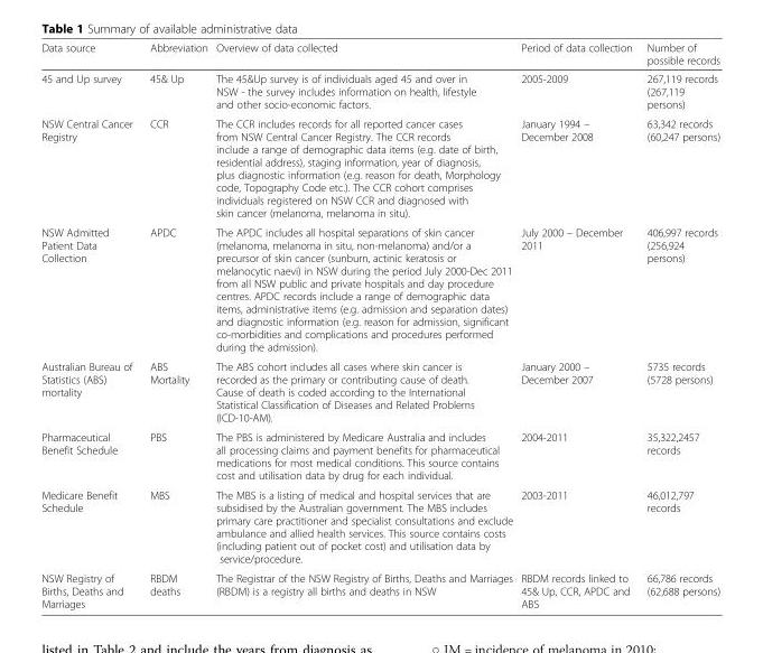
<table><thead><tr><td>Data source</td><td>Abbreviation</td><td>Overview of data collected</td><td>Period of data collection</td><td>Number of possible records</td></tr></thead><tbody><tr><td>45 and Up survey</td><td>45&amp; Up</td><td>The 45&amp;Up survey is of individuals aged 45 and over in NSW - the survey includes information on health, lifestyle and other socio-economic factors.</td><td>2005-2009</td><td>267,119 records (267,119 persons)</td></tr><tr><td>NSW Central Cancer Registry</td><td>CCR</td><td>The CCR includes records for all reported cancer cases from NSW Central Cancer Registry. The CCR records include a range of demographic data items (e.g. date of birth, residential address), staging information, year of diagnosis, plus diagnostic information (e.g. reason for death, Morphology code, Topography Code etc.). The CCR cohort comprises individuals registered on NSW CCR and diagnosed with skin cancer (melanoma, melanoma in situ).</td><td>January 1994 – December 2008</td><td>63,342 records (60,247 persons)</td></tr><tr><td>NSW Admitted Patient Data Collection</td><td>APDC</td><td>The APDC includes all hospital separations of skin cancer (melanoma, melanoma in situ, non-melanoma) and/or a precursor of skin cancer (sunburn, actinic keratosis or melanocytic naevi) in NSW during the period July 2000-Dec 2011 from all NSW public and private hospitals and day procedure centres. APDC records include a range of demographic data items, administrative items (e.g. admission and separation dates) and diagnostic information (e.g. reason for admission, significant co-morbidities and complications and procedures performed during the admission).</td><td>July 2000 – December 2011</td><td>406,997 records (256,924 persons)</td></tr><tr><td>Australian Bureau of Statistics (ABS) mortality</td><td>ABS Mortality</td><td>The ABS cohort includes all cases where skin cancer is recorded as the primary or contributing cause of death. Cause of death is coded according to the International Statistical Classification of Diseases and Related Problems (ICD-10-AM).</td><td>January 2000 – December 2007</td><td>5735 records (5728 persons)</td></tr><tr><td>Pharmaceutical Benefit Schedule</td><td>PBS</td><td>The PBS is administered by Medicare Australia and includes all processing claims and payment benefits for pharmaceutical medications for most medical conditions. This source contains cost and utilisation data by drug for each individual.</td><td>2004-2011</td><td>35,322,2457 records</td></tr><tr><td>Medicare Benefit Schedule</td><td>MBS</td><td>The MBS is a listing of medical and hospital services that are subsidised by the Australian government. The MBS includes primary care practitioner and specialist consultations and exclude ambulance and allied health services. This source contains costs (including patient out of pocket cost) and utilisation data by service/procedure.</td><td>2003-2011</td><td>46,012,797 records</td></tr><tr><td>NSW Registry of Births, Deaths and Marriages</td><td>RBDM deaths</td><td>The Registrar of the NSW Registry of Births, Deaths and Marriages (RBDM) is a registry all births and deaths in NSW</td><td>RBDM records linked to 45&amp; Up, CCR, APDC and ABS</td><td>66,786 records (62,688 persons)</td></tr></tbody></table>